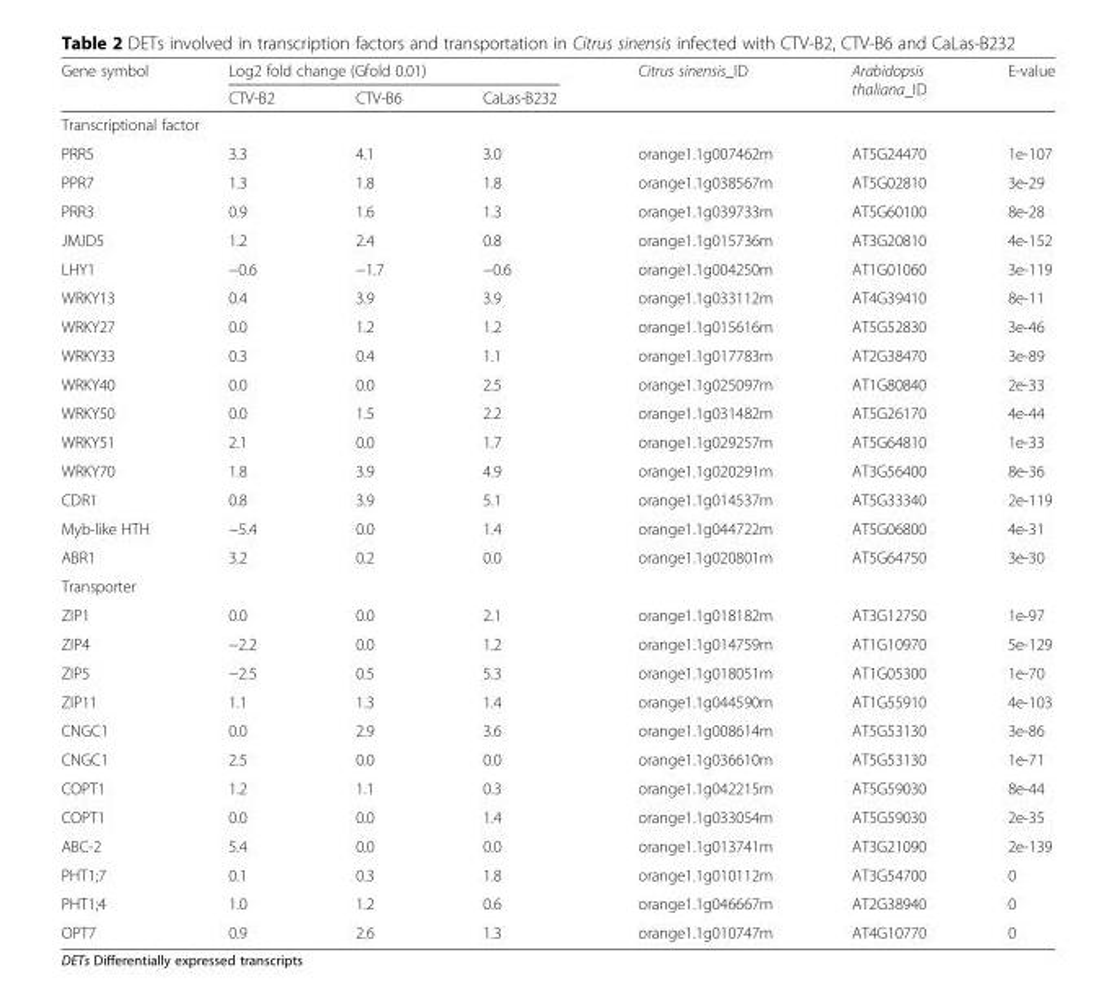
<table><thead><tr><td rowspan="2">Gene symbol</td><td colspan="3">Log2 fold change (Gfold 0.01)</td><td rowspan="2">Citrus sinensis_ID</td><td rowspan="2">Arabidopsis thaliana_ID</td><td rowspan="2">E-value</td></tr><tr><td>CTV-B2</td><td>CTV-B6</td><td>CaLas-B232</td></tr></thead><tbody><tr><td colspan="7">Transcriptional factor</td></tr><tr><td>PRR5</td><td>3.3</td><td>4.1</td><td>3.0</td><td>orange1.1g007462m</td><td>AT5G24470</td><td>1e-107</td></tr><tr><td>PPR7</td><td>1.3</td><td>1.8</td><td>1.8</td><td>orange1.1g038567m</td><td>AT5G02810</td><td>3e-29</td></tr><tr><td>PRR3</td><td>0.9</td><td>1.6</td><td>1.3</td><td>orange1.1g039733m</td><td>AT5G60100</td><td>8e-28</td></tr><tr><td>JMJD5</td><td>1.2</td><td>2.4</td><td>0.8</td><td>orange1.1g015736m</td><td>AT3G20810</td><td>4e-152</td></tr><tr><td>LHY1</td><td>−0.6</td><td>−1.7</td><td>−0.6</td><td>orange1.1g004250m</td><td>AT1G01060</td><td>3e-119</td></tr><tr><td>WRKY13</td><td>0.4</td><td>3.9</td><td>3.9</td><td>orange1.1g033112m</td><td>AT4G39410</td><td>8e-11</td></tr><tr><td>WRKY27</td><td>0.0</td><td>1.2</td><td>1.2</td><td>orange1.1g015616m</td><td>AT5G52830</td><td>3e-46</td></tr><tr><td>WRKY33</td><td>0.3</td><td>0.4</td><td>1.1</td><td>orange1.1g017783m</td><td>AT2G38470</td><td>3e-89</td></tr><tr><td>WRKY40</td><td>0.0</td><td>0.0</td><td>2.5</td><td>orange1.1g025097m</td><td>AT1G80840</td><td>2e-33</td></tr><tr><td>WRKY50</td><td>0.0</td><td>1.5</td><td>2.2</td><td>orange1.1g031482m</td><td>AT5G26170</td><td>4e-44</td></tr><tr><td>WRKY51</td><td>2.1</td><td>0.0</td><td>1.7</td><td>orange1.1g029257m</td><td>AT5G64810</td><td>1e-33</td></tr><tr><td>WRKY70</td><td>1.8</td><td>3.9</td><td>4.9</td><td>orange1.1g020291m</td><td>AT3G56400</td><td>8e-36</td></tr><tr><td>CDR1</td><td>0.8</td><td>3.9</td><td>5.1</td><td>orange1.1g014537m</td><td>AT5G33340</td><td>2e-119</td></tr><tr><td>Myb-like HTH</td><td>−5.4</td><td>0.0</td><td>1.4</td><td>orange1.1g044722m</td><td>AT5G06800</td><td>4e-31</td></tr><tr><td>ABR1</td><td>3.2</td><td>0.2</td><td>0.0</td><td>orange1.1g020801m</td><td>AT5G64750</td><td>3e-30</td></tr><tr><td colspan="7">Transporter</td></tr><tr><td>ZIP1</td><td>0.0</td><td>0.0</td><td>2.1</td><td>orange1.1g018182m</td><td>AT3G12750</td><td>1e-97</td></tr><tr><td>ZIP4</td><td>−2.2</td><td>0.0</td><td>1.2</td><td>orange1.1g014759m</td><td>AT1G10970</td><td>5e-129</td></tr><tr><td>ZIP5</td><td>−2.5</td><td>0.5</td><td>5.3</td><td>orange1.1g018051m</td><td>AT1G05300</td><td>1e-70</td></tr><tr><td>ZIP11</td><td>1.1</td><td>1.3</td><td>1.4</td><td>orange1.1g044590m</td><td>AT1G55910</td><td>4e-103</td></tr><tr><td>CNGC1</td><td>0.0</td><td>2.9</td><td>3.6</td><td>orange1.1g008614m</td><td>AT5G53130</td><td>3e-86</td></tr><tr><td>CNGC1</td><td>2.5</td><td>0.0</td><td>0.0</td><td>orange1.1g036610m</td><td>AT5G53130</td><td>1e-71</td></tr><tr><td>COPT1</td><td>1.2</td><td>1.1</td><td>0.3</td><td>orange1.1g042215m</td><td>AT5G59030</td><td>8e-44</td></tr><tr><td>COPT1</td><td>0.0</td><td>0.0</td><td>1.4</td><td>orange1.1g033054m</td><td>AT5G59030</td><td>2e-35</td></tr><tr><td>ABC-2</td><td>5.4</td><td>0.0</td><td>0.0</td><td>orange1.1g013741m</td><td>AT3G21090</td><td>2e-139</td></tr><tr><td>PHT1;7</td><td>0.1</td><td>0.3</td><td>1.8</td><td>orange1.1g010112m</td><td>AT3G54700</td><td>0</td></tr><tr><td>PHT1;4</td><td>1.0</td><td>1.2</td><td>0.6</td><td>orange1.1g046667m</td><td>AT2G38940</td><td>0</td></tr><tr><td>OPT7</td><td>0.9</td><td>2.6</td><td>1.3</td><td>orange1.1g010747m</td><td>AT4G10770</td><td>0</td></tr></tbody></table>